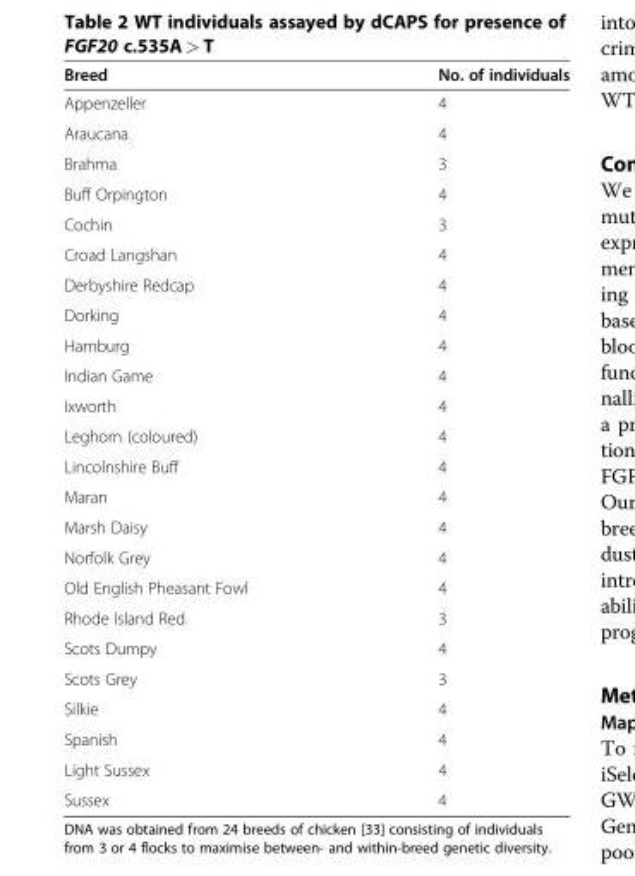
<table><thead><tr><td>Breed</td><td>No. of individuals</td></tr></thead><tbody><tr><td>Appenzeller</td><td>4</td></tr><tr><td>Araucana</td><td>4</td></tr><tr><td>Brahma</td><td>3</td></tr><tr><td>Buff Orpington</td><td>4</td></tr><tr><td>Cochin</td><td>3</td></tr><tr><td>Croad Langshan</td><td>4</td></tr><tr><td>Derbyshire Redcap</td><td>4</td></tr><tr><td>Dorking</td><td>4</td></tr><tr><td>Hamburg</td><td>4</td></tr><tr><td>Indian Game</td><td>4</td></tr><tr><td>Ixworth</td><td>4</td></tr><tr><td>Leghorn (coloured)</td><td>4</td></tr><tr><td>Lincolnshire Buff</td><td>4</td></tr><tr><td>Maran</td><td>4</td></tr><tr><td>Marsh Daisy</td><td>4</td></tr><tr><td>Norfolk Grey</td><td>4</td></tr><tr><td>Old English Pheasant Fowl</td><td>4</td></tr><tr><td>Rhode Island Red</td><td>3</td></tr><tr><td>Scots Dumpy</td><td>4</td></tr><tr><td>Scots Grey</td><td>3</td></tr><tr><td>Silkie</td><td>4</td></tr><tr><td>Spanish</td><td>4</td></tr><tr><td>Light Sussex</td><td>4</td></tr><tr><td>Sussex</td><td>4</td></tr></tbody></table>